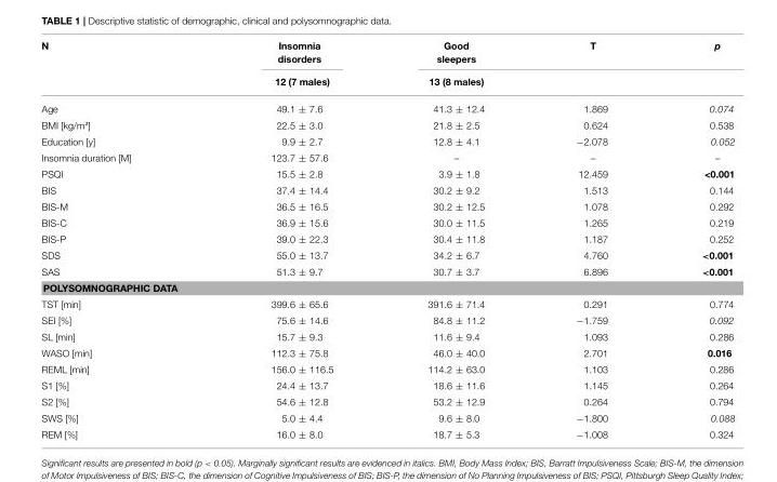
<table><thead><tr><td rowspan="2">N</td><td rowspan="2">Insomnia disorders 12 (7 males)</td><td rowspan="2">Good sleepers 13 (8 males)</td><td rowspan="2">T</td><td rowspan="2">p</td></tr><tr></tr></thead><tbody><tr><td>Age</td><td>49.1 ± 7.6</td><td>41.3 ± 12.4</td><td>1.869</td><td>0.074</td></tr><tr><td>BMI [kg/m²]</td><td>22.5 ± 3.0</td><td>21.8 ± 2.5</td><td>0.624</td><td>0.538</td></tr><tr><td>Education [y]</td><td>9.9 ± 2.7</td><td>12.8 ± 4.1</td><td>−2.078</td><td>0.052</td></tr><tr><td>Insomnia duration [M]</td><td>123.7 ± 57.6</td><td>–</td><td>–</td><td>–</td></tr><tr><td>PSQI</td><td>15.5 ± 2.8</td><td>3.9 ± 1.8</td><td>12.459</td><td>&lt;0.001</td></tr><tr><td>BIS</td><td>37.4 ± 14.4</td><td>30.2 ± 9.2</td><td>1.513</td><td>0.144</td></tr><tr><td>BIS-M</td><td>36.5 ± 16.5</td><td>30.2 ± 12.5</td><td>1.078</td><td>0.292</td></tr><tr><td>BIS-C</td><td>36.9 ± 15.6</td><td>30.0 ± 11.5</td><td>1.265</td><td>0.219</td></tr><tr><td>BIS-P</td><td>39.0 ± 22.3</td><td>30.4 ± 11.8</td><td>1.187</td><td>0.252</td></tr><tr><td>SDS</td><td>55.0 ± 13.7</td><td>34.2 ± 6.7</td><td>4.760</td><td>&lt;0.001</td></tr><tr><td>SAS</td><td>51.3 ± 9.7</td><td>30.7 ± 3.7</td><td>6.896</td><td>&lt;0.001</td></tr><tr><td colspan="5">POLYSOMNOGRAPHIC DATA</td></tr><tr><td>TST [min]</td><td>399.6 ± 65.6</td><td>391.6 ± 71.4</td><td>0.291</td><td>0.774</td></tr><tr><td>SEI [%]</td><td>75.6 ± 14.6</td><td>84.8 ± 11.2</td><td>−1.759</td><td>0.092</td></tr><tr><td>SL [min]</td><td>15.7 ± 9.3</td><td>11.6 ± 9.4</td><td>1.093</td><td>0.286</td></tr><tr><td>WASO [min]</td><td>112.3 ± 75.8</td><td>46.0 ± 40.0</td><td>2.701</td><td>0.016</td></tr><tr><td>REML [min]</td><td>156.0 ± 116.5</td><td>114.2 ± 63.0</td><td>1.103</td><td>0.286</td></tr><tr><td>S1 [%]</td><td>24.4 ± 13.7</td><td>18.6 ± 11.6</td><td>1.145</td><td>0.264</td></tr><tr><td>S2 [%]</td><td>54.6 ± 12.8</td><td>53.2 ± 12.9</td><td>0.264</td><td>0.794</td></tr><tr><td>SWS [%]</td><td>5.0 ± 4.4</td><td>9.6 ± 8.0</td><td>−1.800</td><td>0.088</td></tr><tr><td>REM [%]</td><td>16.0 ± 8.0</td><td>18.7 ± 5.3</td><td>−1.008</td><td>0.324</td></tr></tbody></table>